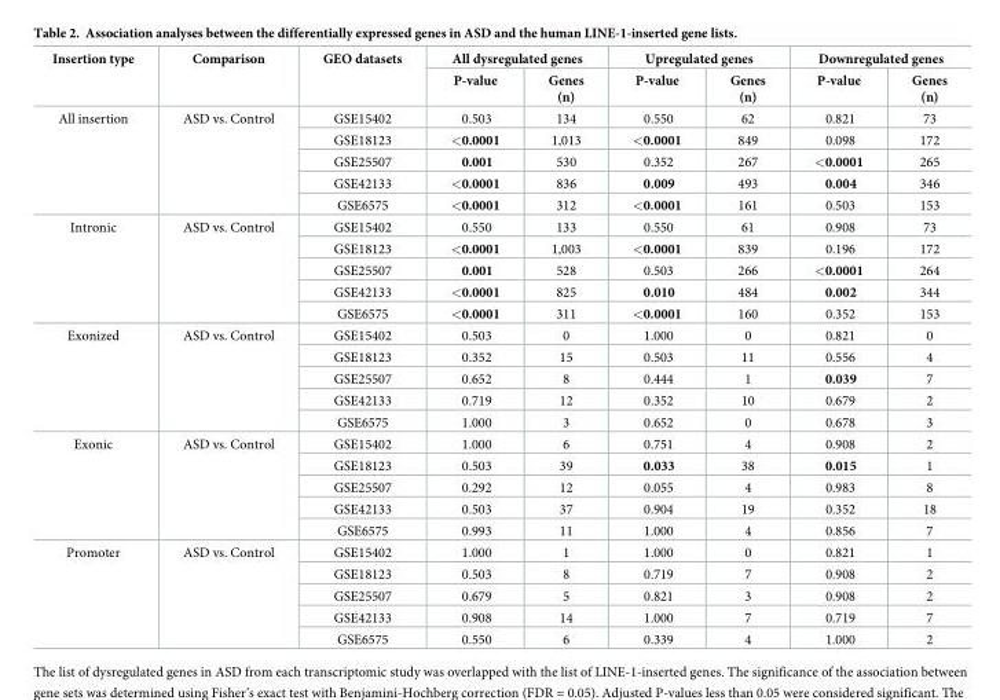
<table><thead><tr><td rowspan="2">Insertion type</td><td rowspan="2">Comparison</td><td rowspan="2">GEO datasets</td><td colspan="2">All dysregulated genes</td><td colspan="2">Upregulated genes</td><td colspan="2">Downregulated genes</td></tr><tr><td>P-value</td><td>Genes (n)</td><td>P-value</td><td>Genes (n)</td><td>P-value</td><td>Genes (n)</td></tr></thead><tbody><tr><td rowspan="5">All insertion</td><td rowspan="5">ASD vs. Control</td><td>GSE15402</td><td>0.503</td><td>134</td><td>0.550</td><td>62</td><td>0.821</td><td>73</td></tr><tr><td>GSE18123</td><td>&lt;0.0001</td><td>1,013</td><td>&lt;0.0001</td><td>849</td><td>0.098</td><td>172</td></tr><tr><td>GSE25507</td><td>0.001</td><td>530</td><td>0.352</td><td>267</td><td>&lt;0.0001</td><td>265</td></tr><tr><td>GSE42133</td><td>&lt;0.0001</td><td>836</td><td>0.009</td><td>493</td><td>0.004</td><td>346</td></tr><tr><td>GSE6575</td><td>&lt;0.0001</td><td>312</td><td>&lt;0.0001</td><td>161</td><td>0.503</td><td>153</td></tr><tr><td rowspan="5">Intronic</td><td rowspan="5">ASD vs. Control</td><td>GSE15402</td><td>0.550</td><td>133</td><td>0.550</td><td>61</td><td>0.908</td><td>73</td></tr><tr><td>GSE18123</td><td>&lt;0.0001</td><td>1,003</td><td>&lt;0.0001</td><td>839</td><td>0.196</td><td>172</td></tr><tr><td>GSE25507</td><td>0.001</td><td>528</td><td>0.503</td><td>266</td><td>&lt;0.0001</td><td>264</td></tr><tr><td>GSE42133</td><td>&lt;0.0001</td><td>825</td><td>0.010</td><td>484</td><td>0.002</td><td>344</td></tr><tr><td>GSE6575</td><td>&lt;0.0001</td><td>311</td><td>&lt;0.0001</td><td>160</td><td>0.352</td><td>153</td></tr><tr><td rowspan="5">Exonized</td><td rowspan="5">ASD vs. Control</td><td>GSE15402</td><td>0.503</td><td>0</td><td>1.000</td><td>0</td><td>0.821</td><td>0</td></tr><tr><td>GSE18123</td><td>0.352</td><td>15</td><td>0.503</td><td>11</td><td>0.556</td><td>4</td></tr><tr><td>GSE25507</td><td>0.652</td><td>8</td><td>0.444</td><td>1</td><td>0.039</td><td>7</td></tr><tr><td>GSE42133</td><td>0.719</td><td>12</td><td>0.352</td><td>10</td><td>0.679</td><td>2</td></tr><tr><td>GSE6575</td><td>1.000</td><td>3</td><td>0.652</td><td>0</td><td>0.678</td><td>3</td></tr><tr><td rowspan="5">Exonic</td><td rowspan="5">ASD vs. Control</td><td>GSE15402</td><td>1.000</td><td>6</td><td>0.751</td><td>4</td><td>0.908</td><td>2</td></tr><tr><td>GSE18123</td><td>0.503</td><td>39</td><td>0.033</td><td>38</td><td>0.015</td><td>1</td></tr><tr><td>GSE25507</td><td>0.292</td><td>12</td><td>0.055</td><td>4</td><td>0.983</td><td>8</td></tr><tr><td>GSE42133</td><td>0.503</td><td>37</td><td>0.904</td><td>19</td><td>0.352</td><td>18</td></tr><tr><td>GSE6575</td><td>0.993</td><td>11</td><td>1.000</td><td>4</td><td>0.856</td><td>7</td></tr><tr><td rowspan="5">Promoter</td><td rowspan="5">ASD vs. Control</td><td>GSE15402</td><td>1.000</td><td>1</td><td>1.000</td><td>0</td><td>0.821</td><td>1</td></tr><tr><td>GSE18123</td><td>0.503</td><td>8</td><td>0.719</td><td>7</td><td>0.908</td><td>2</td></tr><tr><td>GSE25507</td><td>0.679</td><td>5</td><td>0.821</td><td>3</td><td>0.908</td><td>2</td></tr><tr><td>GSE42133</td><td>0.908</td><td>14</td><td>1.000</td><td>7</td><td>0.719</td><td>7</td></tr><tr><td>GSE6575</td><td>0.550</td><td>6</td><td>0.339</td><td>4</td><td>1.000</td><td>2</td></tr></tbody></table>